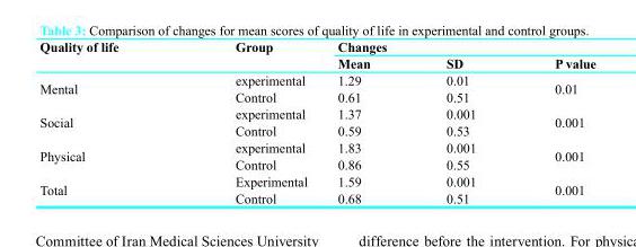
<table><thead><tr><td rowspan="2">Quality of life</td><td rowspan="2">Group</td><td colspan="3">Changes</td></tr><tr><td>Mean</td><td>SD</td><td>P value</td></tr></thead><tbody><tr><td rowspan="2">Mental</td><td>experimental</td><td>1.29</td><td>0.01</td><td rowspan="2">0.01</td></tr><tr><td>Control</td><td>0.61</td><td>0.51</td></tr><tr><td rowspan="2">Social</td><td>experimental</td><td>1.37</td><td>0.001</td><td rowspan="2">0.001</td></tr><tr><td>Control</td><td>0.59</td><td>0.53</td></tr><tr><td rowspan="2">Physical</td><td>experimental</td><td>1.83</td><td>0.001</td><td rowspan="2">0.001</td></tr><tr><td>Control</td><td>0.86</td><td>0.55</td></tr><tr><td rowspan="2">Total</td><td>Experimental</td><td>1.59</td><td>0.001</td><td rowspan="2">0.001</td></tr><tr><td>Control</td><td>0.68</td><td>0.51</td></tr></tbody></table>